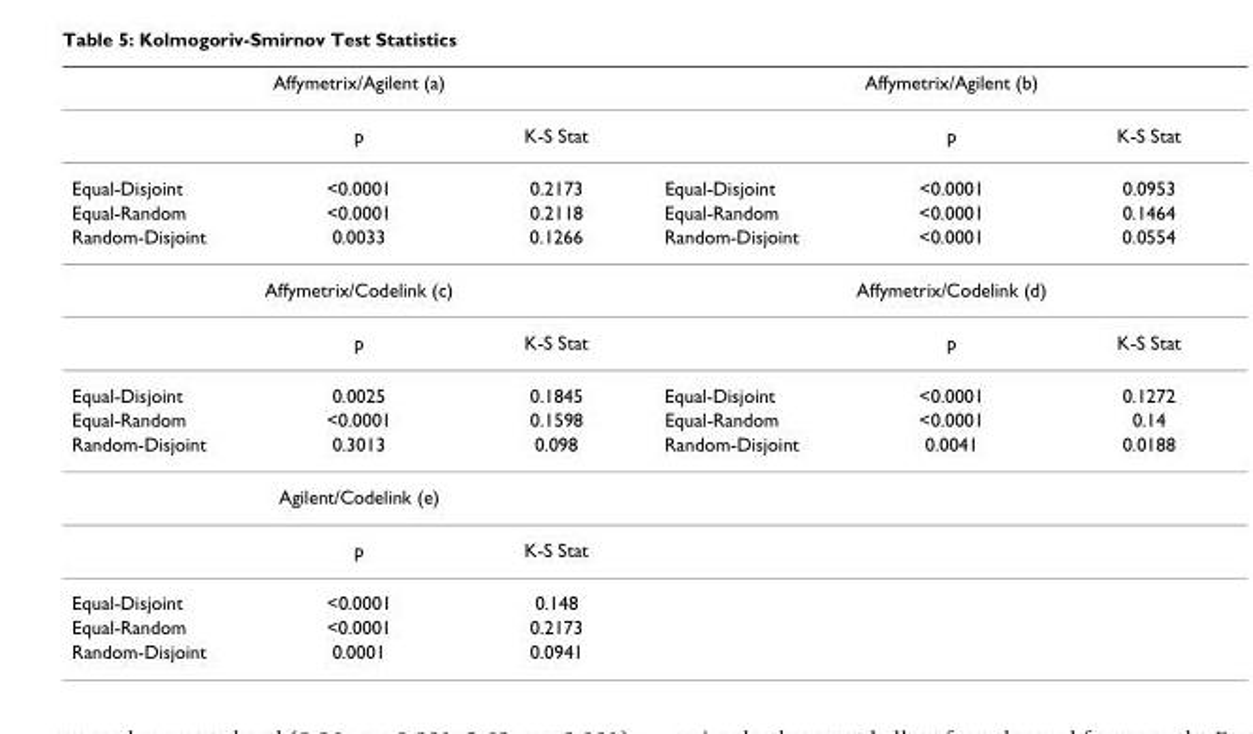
<table><thead><tr><td colspan="3">Affymetrix/Agilent (a)</td><td colspan="3">Affymetrix/Agilent (b)</td></tr><tr><td></td><td>p</td><td>K-S Stat</td><td></td><td>p</td><td>K-S Stat</td></tr></thead><tbody><tr><td>Equal-Disjoint</td><td>&lt;0.0001</td><td>0.2173</td><td>Equal-Disjoint</td><td>&lt;0.0001</td><td>0.0953</td></tr><tr><td>Equal-Random</td><td>&lt;0.0001</td><td>0.2118</td><td>Equal-Random</td><td>&lt;0.0001</td><td>0.1464</td></tr><tr><td>Random-Disjoint</td><td>0.0033</td><td>0.1266</td><td>Random-Disjoint</td><td>&lt;0.0001</td><td>0.0554</td></tr><tr><td colspan="3">Affymetrix/Codelink (c)</td><td colspan="3">Affymetrix/Codelink (d)</td></tr><tr><td></td><td>p</td><td>K-S Stat</td><td></td><td>p</td><td>K-S Stat</td></tr><tr><td>Equal-Disjoint</td><td>0.0025</td><td>0.1845</td><td>Equal-Disjoint</td><td>&lt;0.0001</td><td>0.1272</td></tr><tr><td>Equal-Random</td><td>&lt;0.0001</td><td>0.1598</td><td>Equal-Random</td><td>&lt;0.0001</td><td>0.14</td></tr><tr><td>Random-Disjoint</td><td>0.3013</td><td>0.098</td><td>Random-Disjoint</td><td>0.0041</td><td>0.0188</td></tr><tr><td colspan="6">Agilent/Codelink (e)</td></tr><tr><td></td><td>p</td><td>K-S Stat</td><td></td><td></td><td></td></tr><tr><td>Equal-Disjoint</td><td>&lt;0.0001</td><td>0.148</td><td></td><td></td><td></td></tr><tr><td>Equal-Random</td><td>&lt;0.0001</td><td>0.2173</td><td></td><td></td><td></td></tr><tr><td>Random-Disjoint</td><td>0.0001</td><td>0.0941</td><td></td><td></td><td></td></tr></tbody></table>